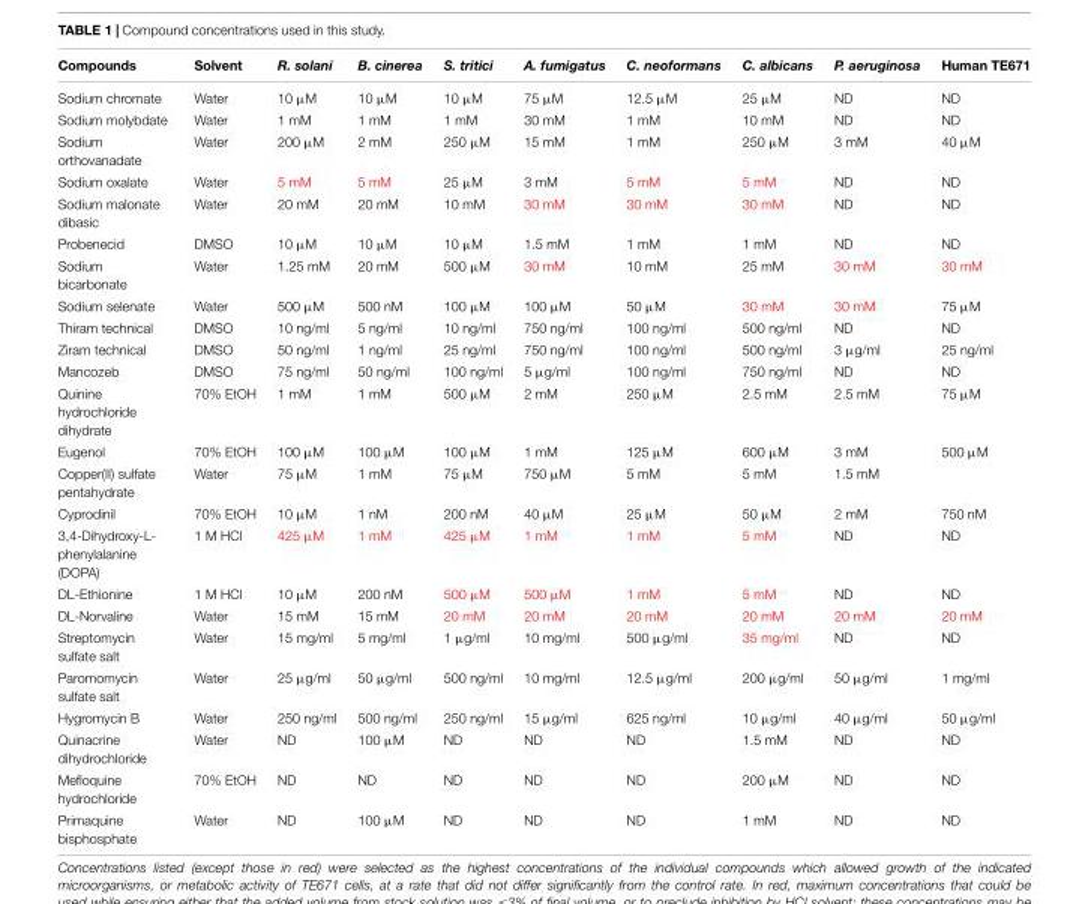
<table><thead><tr><td>Compounds</td><td>Solvent</td><td>R. solani</td><td>B. cinerea</td><td>S. tritici</td><td>A. fumigatus</td><td>C. neoformans</td><td>C. albicans</td><td>P. aeruginosa</td><td>Human TE671</td></tr></thead><tbody><tr><td>Sodium chromate</td><td>Water</td><td>10 µM</td><td>10 µM</td><td>10 µM</td><td>75 µM</td><td>12.5 µM</td><td>25 µM</td><td>ND</td><td>ND</td></tr><tr><td>Sodium molybdate</td><td>Water</td><td>1 mM</td><td>1 mM</td><td>1 mM</td><td>30 mM</td><td>1 mM</td><td>10 mM</td><td>ND</td><td>ND</td></tr><tr><td>Sodium orthovanadate</td><td>Water</td><td>200 µM</td><td>2 mM</td><td>250 µM</td><td>15 mM</td><td>1 mM</td><td>250 µM</td><td>3 mM</td><td>40 µM</td></tr><tr><td>Sodium oxalate</td><td>Water</td><td>5 mM</td><td>5 mM</td><td>25 µM</td><td>3 mM</td><td>5 mM</td><td>5 mM</td><td>ND</td><td>ND</td></tr><tr><td>Sodium malonate dibasic</td><td>Water</td><td>20 mM</td><td>20 mM</td><td>10 mM</td><td>30 mM</td><td>30 mM</td><td>30 mM</td><td>ND</td><td>ND</td></tr><tr><td>Probenecid</td><td>DMSO</td><td>10 µM</td><td>10 µM</td><td>10 µM</td><td>1.5 mM</td><td>1 mM</td><td>1 mM</td><td>ND</td><td>ND</td></tr><tr><td>Sodium bicarbonate</td><td>Water</td><td>1.25 mM</td><td>20 mM</td><td>500 µM</td><td>30 mM</td><td>10 mM</td><td>25 mM</td><td>30 mM</td><td>30 mM</td></tr><tr><td>Sodium selenate</td><td>Water</td><td>500 µM</td><td>500 nM</td><td>100 µM</td><td>100 µM</td><td>50 µM</td><td>30 mM</td><td>30 mM</td><td>75 µM</td></tr><tr><td>Thiram technical</td><td>DMSO</td><td>10 ng/ml</td><td>5 ng/ml</td><td>10 ng/ml</td><td>750 ng/ml</td><td>100 ng/ml</td><td>500 ng/ml</td><td>ND</td><td>ND</td></tr><tr><td>Ziram technical</td><td>DMSO</td><td>50 ng/ml</td><td>1 ng/ml</td><td>25 ng/ml</td><td>750 ng/ml</td><td>100 ng/ml</td><td>500 ng/ml</td><td>3 µg/ml</td><td>25 ng/ml</td></tr><tr><td>Mancozeb</td><td>DMSO</td><td>75 ng/ml</td><td>50 ng/ml</td><td>100 ng/ml</td><td>5 µg/ml</td><td>100 ng/ml</td><td>750 ng/ml</td><td>ND</td><td>ND</td></tr><tr><td>Quinine hydrochloride dihydrate</td><td>70% EtOH</td><td>1 mM</td><td>1 mM</td><td>500 µM</td><td>2 mM</td><td>250 µM</td><td>2.5 mM</td><td>2.5 mM</td><td>75 µM</td></tr><tr><td>Eugenol</td><td>70% EtOH</td><td>100 µM</td><td>100 µM</td><td>100 µM</td><td>1 mM</td><td>125 µM</td><td>600 µM</td><td>3 mM</td><td>500 µM</td></tr><tr><td>Copper(II) sulfate pentahydrate</td><td>Water</td><td>75 µM</td><td>1 mM</td><td>75 µM</td><td>750 µM</td><td>5 mM</td><td>5 mM</td><td>1.5 mM</td><td></td></tr><tr><td>Cyprodinil</td><td>70% EtOH</td><td>10 µM</td><td>1 nM</td><td>200 nM</td><td>40 µM</td><td>25 µM</td><td>50 µM</td><td>2 mM</td><td>750 nM</td></tr><tr><td>3,4-Dihydroxy-L- phenylalanine (DOPA)</td><td>1 M HCl</td><td>425 µM</td><td>1 mM</td><td>425 µM</td><td>1 mM</td><td>1 mM</td><td>5 mM</td><td>ND</td><td>ND</td></tr><tr><td>DL-Ethionine</td><td>1 M HCl</td><td>10 µM</td><td>200 nM</td><td>500 µM</td><td>500 µM</td><td>1 mM</td><td>5 mM</td><td>ND</td><td>ND</td></tr><tr><td>DL-Norvaline</td><td>Water</td><td>15 mM</td><td>15 mM</td><td>20 mM</td><td>20 mM</td><td>20 mM</td><td>20 mM</td><td>20 mM</td><td>20 mM</td></tr><tr><td>Streptomycin sulfate salt</td><td>Water</td><td>15 mg/ml</td><td>5 mg/ml</td><td>1 µg/ml</td><td>10 mg/ml</td><td>500 µg/ml</td><td>35 mg/ml</td><td>ND</td><td>ND</td></tr><tr><td>Paromomycin sulfate salt</td><td>Water</td><td>25 µg/ml</td><td>50 µg/ml</td><td>500 ng/ml</td><td>10 mg/ml</td><td>12.5 µg/ml</td><td>200 µg/ml</td><td>50 µg/ml</td><td>1 mg/ml</td></tr><tr><td>Hygromycin B</td><td>Water</td><td>250 ng/ml</td><td>500 ng/ml</td><td>250 ng/ml</td><td>15 µg/ml</td><td>625 ng/ml</td><td>10 µg/ml</td><td>40 µg/ml</td><td>50 µg/ml</td></tr><tr><td>Quinacrine dihydrochloride</td><td>Water</td><td>ND</td><td>100 µM</td><td>ND</td><td>ND</td><td>ND</td><td>1.5 mM</td><td>ND</td><td>ND</td></tr><tr><td>Mefloquine hydrochloride</td><td>70% EtOH</td><td>ND</td><td>ND</td><td>ND</td><td>ND</td><td>ND</td><td>200 µM</td><td>ND</td><td>ND</td></tr><tr><td>Primaquine bisphosphate</td><td>Water</td><td>ND</td><td>100 µM</td><td>ND</td><td>ND</td><td>ND</td><td>1 mM</td><td>ND</td><td>ND</td></tr></tbody></table>